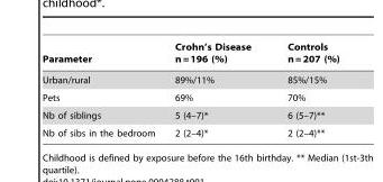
<table><thead><tr><td>Parameter</td><td>Crohn’s Disease n = 196 (%)</td><td>Controls n = 207 (%)</td></tr></thead><tbody><tr><td>Urban/rural</td><td>89%/11%</td><td>85%/15%</td></tr><tr><td>Pets</td><td>69%</td><td>70%</td></tr><tr><td>Nb of siblings</td><td>5 (4–7)*</td><td>6 (5–7)**</td></tr><tr><td>Nb of sibs in the bedroom</td><td>2 (2–4)*</td><td>2 (2–4)**</td></tr></tbody></table>